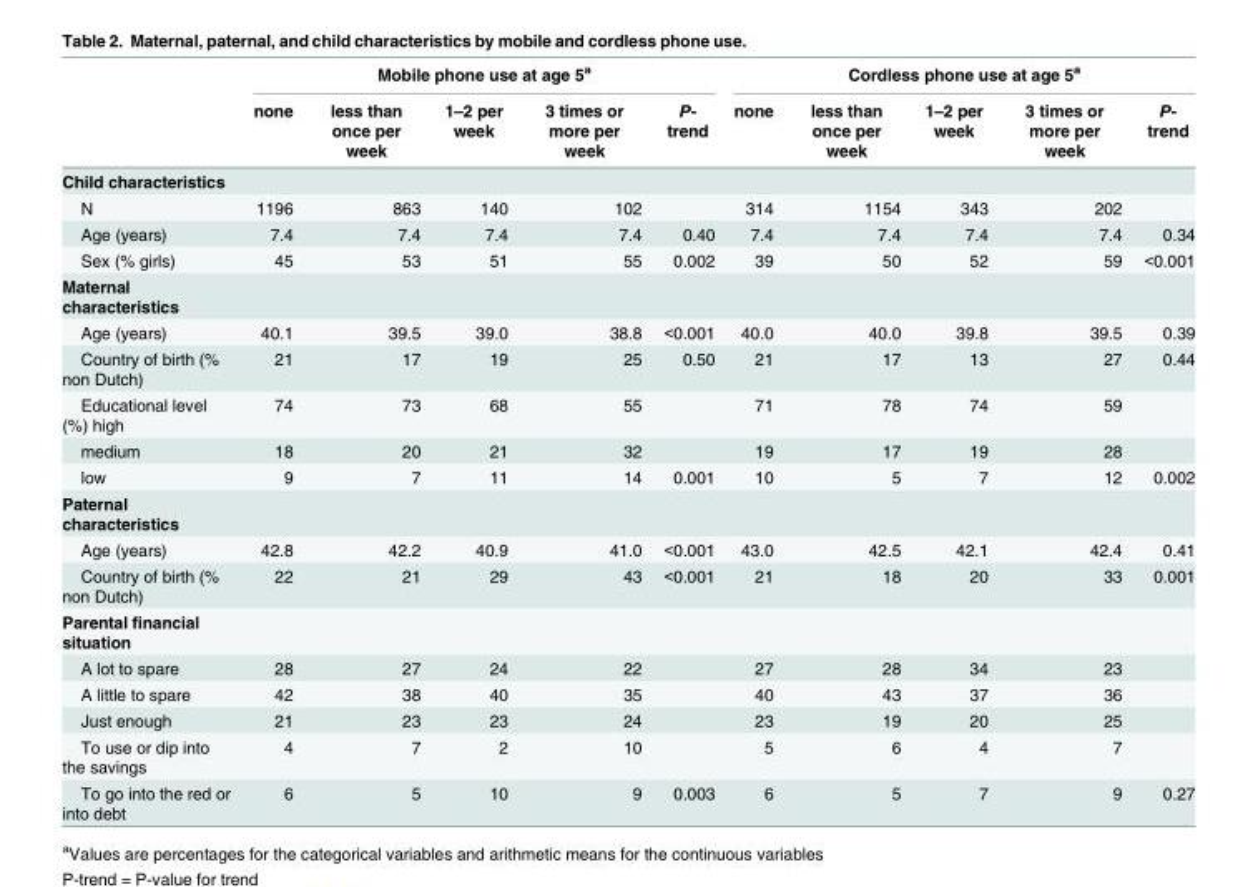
<table><thead><tr><td rowspan="2"></td><td colspan="5">Mobile phone use at age 5<sup>a</sup></td><td colspan="5">Cordless phone use at age 5<sup>a</sup></td></tr><tr><td>none</td><td>less than once per week</td><td>1–2 per week</td><td>3 times or more per week</td><td>P- trend</td><td>none</td><td>less than once per week</td><td>1–2 per week</td><td>3 times or more per week</td><td>P- trend</td></tr></thead><tbody><tr><td colspan="11">Child characteristics</td></tr><tr><td>N</td><td>1196</td><td>863</td><td>140</td><td>102</td><td></td><td>314</td><td>1154</td><td>343</td><td>202</td><td></td></tr><tr><td>Age (years)</td><td>7.4</td><td>7.4</td><td>7.4</td><td>7.4</td><td>0.40</td><td>7.4</td><td>7.4</td><td>7.4</td><td>7.4</td><td>0.34</td></tr><tr><td>Sex (% girls)</td><td>45</td><td>53</td><td>51</td><td>55</td><td>0.002</td><td>39</td><td>50</td><td>52</td><td>59</td><td>&lt;0.001</td></tr><tr><td colspan="11">Maternal characteristics</td></tr><tr><td>Age (years)</td><td>40.1</td><td>39.5</td><td>39.0</td><td>38.8</td><td>&lt;0.001</td><td>40.0</td><td>40.0</td><td>39.8</td><td>39.5</td><td>0.39</td></tr><tr><td>Country of birth (% non Dutch)</td><td>21</td><td>17</td><td>19</td><td>25</td><td>0.50</td><td>21</td><td>17</td><td>13</td><td>27</td><td>0.44</td></tr><tr><td>Educational level (%) high</td><td>74</td><td>73</td><td>68</td><td>55</td><td></td><td>71</td><td>78</td><td>74</td><td>59</td><td></td></tr><tr><td>medium</td><td>18</td><td>20</td><td>21</td><td>32</td><td></td><td>19</td><td>17</td><td>19</td><td>28</td><td></td></tr><tr><td>low</td><td>9</td><td>7</td><td>11</td><td>14</td><td>0.001</td><td>10</td><td>5</td><td>7</td><td>12</td><td>0.002</td></tr><tr><td colspan="11">Paternal characteristics</td></tr><tr><td>Age (years)</td><td>42.8</td><td>42.2</td><td>40.9</td><td>41.0</td><td>&lt;0.001</td><td>43.0</td><td>42.5</td><td>42.1</td><td>42.4</td><td>0.41</td></tr><tr><td>Country of birth (% non Dutch)</td><td>22</td><td>21</td><td>29</td><td>43</td><td>&lt;0.001</td><td>21</td><td>18</td><td>20</td><td>33</td><td>0.001</td></tr><tr><td colspan="11">Parental financial situation</td></tr><tr><td>A lot to spare</td><td>28</td><td>27</td><td>24</td><td>22</td><td></td><td>27</td><td>28</td><td>34</td><td>23</td><td></td></tr><tr><td>A little to spare</td><td>42</td><td>38</td><td>40</td><td>35</td><td></td><td>40</td><td>43</td><td>37</td><td>36</td><td></td></tr><tr><td>Just enough</td><td>21</td><td>23</td><td>23</td><td>24</td><td></td><td>23</td><td>19</td><td>20</td><td>25</td><td></td></tr><tr><td>To use or dip into the savings</td><td>4</td><td>7</td><td>2</td><td>10</td><td></td><td>5</td><td>6</td><td>4</td><td>7</td><td></td></tr><tr><td>To go into the red or into debt</td><td>6</td><td>5</td><td>10</td><td>9</td><td>0.003</td><td>6</td><td>5</td><td>7</td><td>9</td><td>0.27</td></tr></tbody></table>